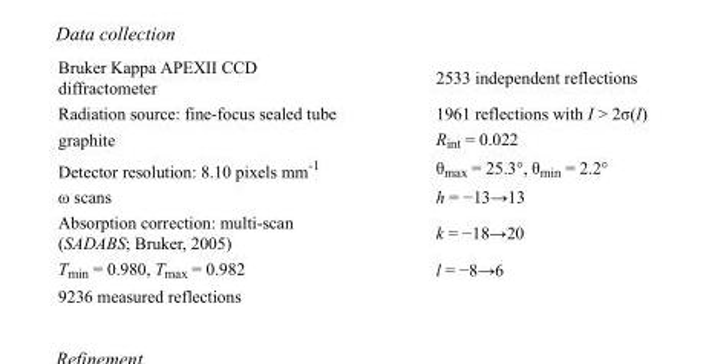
<table><tbody><tr><td>Bruker Kappa APEXII CCD diffractometer</td><td>2533 independent reflections</td></tr><tr><td>Radiation source: fine-focus sealed tube</td><td>1961 reflections with I &gt; 2σ(I)</td></tr><tr><td>graphite</td><td>R<sub>int</sub> = 0.022</td></tr><tr><td>Detector resolution: 8.10 pixels mm<sup>-1</sup></td><td>θ<sub>max</sub> = 25.3°, θ<sub>min</sub> = 2.2°</td></tr><tr><td>ω scans</td><td>h = −13→13</td></tr><tr><td>Absorption correction: multi-scan (SADABS; Bruker, 2005)</td><td>k = −18→20</td></tr><tr><td>T<sub>min</sub> = 0.980, T<sub>max</sub> = 0.982</td><td>l = −8→6</td></tr><tr><td>9236 measured reflections</td><td></td></tr></tbody></table>